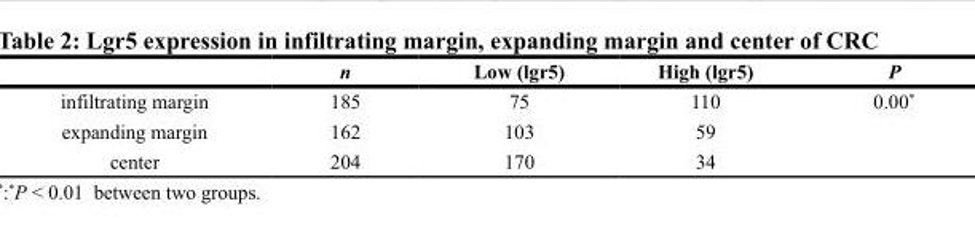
<table><thead><tr><td></td><td>n</td><td>Low (lgr5)</td><td>High (lgr5)</td><td>P</td></tr></thead><tbody><tr><td>infiltrating margin</td><td>185</td><td>75</td><td>110</td><td rowspan="3">0.00*</td></tr><tr><td>expanding margin</td><td>162</td><td>103</td><td>59</td></tr><tr><td>center</td><td>204</td><td>170</td><td>34</td></tr></tbody></table>